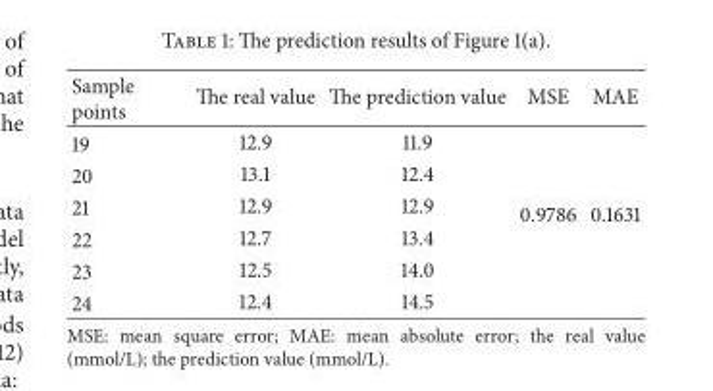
<table><thead><tr><td>Sample points</td><td>The real value</td><td>The prediction value</td><td>MSE</td><td>MAE</td></tr></thead><tbody><tr><td>19</td><td>12.9</td><td>11.9</td><td rowspan="6">0.9786</td><td rowspan="6">0.1631</td></tr><tr><td>20</td><td>13.1</td><td>12.4</td></tr><tr><td>21</td><td>12.9</td><td>12.9</td></tr><tr><td>22</td><td>12.7</td><td>13.4</td></tr><tr><td>23</td><td>12.5</td><td>14.0</td></tr><tr><td>24</td><td>12.4</td><td>14.5</td></tr></tbody></table>